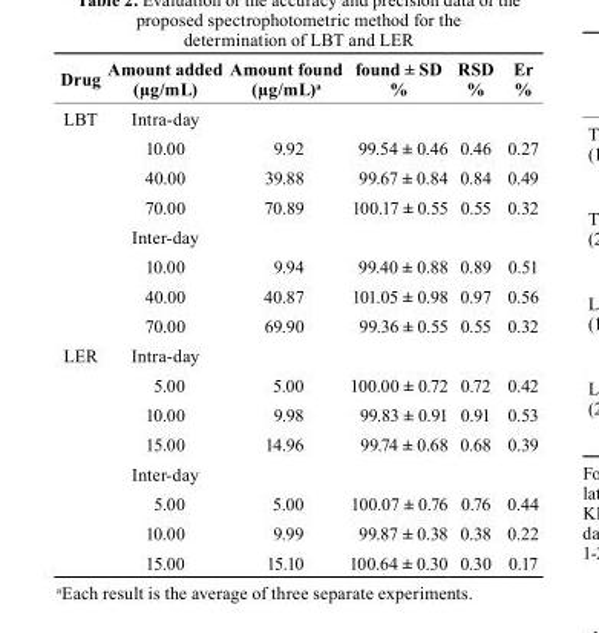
<table><thead><tr><td>Drug</td><td>Amount added (µg/mL)</td><td>Amount found (µg/mL)<sup>a</sup></td><td>found ± sD %</td><td>rsD %</td><td>Er %</td></tr></thead><tbody><tr><td rowspan="8">LBT</td><td>Intra-day</td><td></td><td></td><td></td><td></td></tr><tr><td>10.00</td><td>9.92</td><td>99.54 ± 0.46</td><td>0.46</td><td>0.27</td></tr><tr><td>40.00</td><td>39.88</td><td>99.67 ± 0.84</td><td>0.84</td><td>0.49</td></tr><tr><td>70.00</td><td>70.89</td><td>100.17 ± 0.55</td><td>0.55</td><td>0.32</td></tr><tr><td>Inter-day</td><td></td><td></td><td></td><td></td></tr><tr><td>10.00</td><td>9.94</td><td>99.40 ± 0.88</td><td>0.89</td><td>0.51</td></tr><tr><td>40.00</td><td>40.87</td><td>101.05 ± 0.98</td><td>0.97</td><td>0.56</td></tr><tr><td>70.00</td><td>69.90</td><td>99.36 ± 0.55</td><td>0.55</td><td>0.32</td></tr><tr><td rowspan="8">LER</td><td>Intra-day</td><td></td><td></td><td></td><td></td></tr><tr><td>5.00</td><td>5.00</td><td>100.00 ± 0.72</td><td>0.72</td><td>0.42</td></tr><tr><td>10.00</td><td>9.98</td><td>99.83 ± 0.91</td><td>0.91</td><td>0.53</td></tr><tr><td>15.00</td><td>14.96</td><td>99.74 ± 0.68</td><td>0.68</td><td>0.39</td></tr><tr><td>Inter-day</td><td></td><td></td><td></td><td></td></tr><tr><td>5.00</td><td>5.00</td><td>100.07 ± 0.76</td><td>0.76</td><td>0.44</td></tr><tr><td>10.00</td><td>9.99</td><td>99.87 ± 0.38</td><td>0.38</td><td>0.22</td></tr><tr><td>15.00</td><td>15.10</td><td>100.64 ± 0.30</td><td>0.30</td><td>0.17</td></tr></tbody></table>